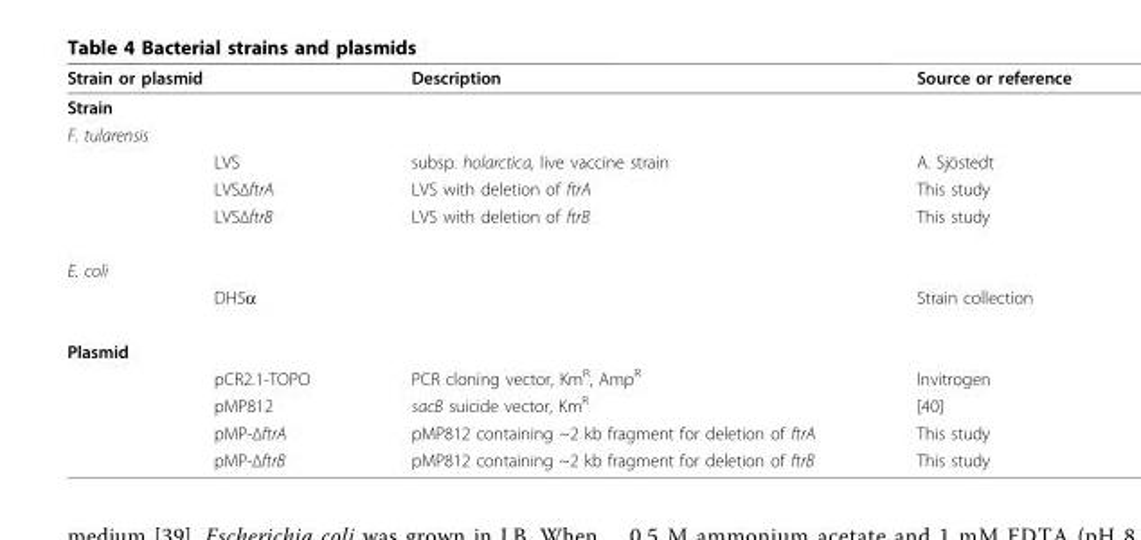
<table><thead><tr><td colspan="2">Strain or plasmid</td><td rowspan="2">Description</td><td rowspan="2">Source or reference</td></tr><tr><td>Strain</td><td></td></tr></thead><tbody><tr><td colspan="4">F. tularensis</td></tr><tr><td></td><td>LVS</td><td>subsp. holarctica, live vaccine strain</td><td>A. Sjöstedt</td></tr><tr><td></td><td>LVSΔftrA</td><td>LVS with deletion of ftrA</td><td>This study</td></tr><tr><td></td><td>LVSΔftrB</td><td>LVS with deletion of ftrB</td><td>This study</td></tr><tr><td colspan="4">E. coli</td></tr><tr><td></td><td>DH5α</td><td></td><td>Strain collection</td></tr><tr><td colspan="4">Plasmid</td></tr><tr><td></td><td>pCR2.1-TOPO</td><td>PCR cloning vector, Km<sup>R</sup>, Amp<sup>R</sup></td><td>Invitrogen</td></tr><tr><td></td><td>pMP812</td><td>sacB suicide vector, Km<sup>R</sup></td><td>[40]</td></tr><tr><td></td><td>pMP-ΔftrA</td><td>pMP812 containing ~2 kb fragment for deletion of ftrA</td><td>This study</td></tr><tr><td></td><td>pMP-ΔftrB</td><td>pMP812 containing ~2 kb fragment for deletion of ftrB</td><td>This study</td></tr></tbody></table>